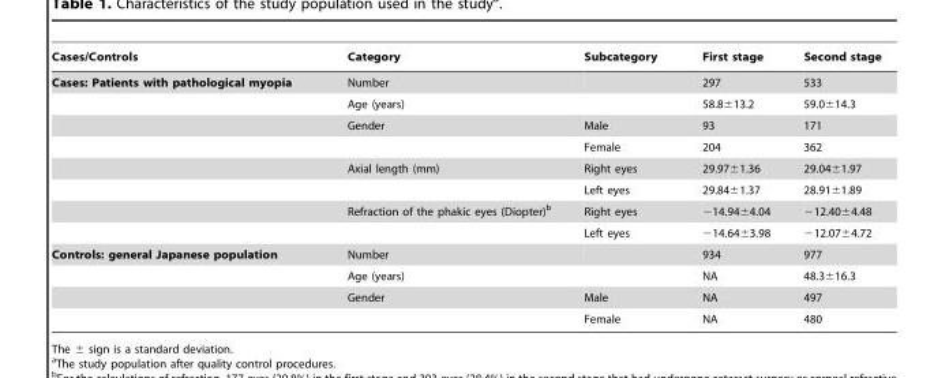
<table><thead><tr><td>Cases/Controls</td><td>Category</td><td>Subcategory</td><td>First stage</td><td>Second stage</td></tr></thead><tbody><tr><td rowspan="8">Cases: Patients with pathological myopia</td><td>Number</td><td></td><td>297</td><td>533</td></tr><tr><td>Age (years)</td><td></td><td>58.8±13.2</td><td>59.0±14.3</td></tr><tr><td>Gender</td><td>Male</td><td>93</td><td>171</td></tr><tr><td></td><td>Female</td><td>204</td><td>362</td></tr><tr><td>Axial length (mm)</td><td>Right eyes</td><td>29.97±1.36</td><td>29.04±1.97</td></tr><tr><td></td><td>Left eyes</td><td>29.84±1.37</td><td>28.91±1.89</td></tr><tr><td>Refraction of the phakic eyes (Diopter)<sup>b</sup></td><td>Right eyes</td><td>−14.94±4.04</td><td>−12.40±4.48</td></tr><tr><td></td><td>Left eyes</td><td>−14.64±3.98</td><td>−12.07±4.72</td></tr><tr><td rowspan="4">Controls: general Japanese population</td><td>Number</td><td></td><td>934</td><td>977</td></tr><tr><td>Age (years)</td><td></td><td>NA</td><td>48.3±16.3</td></tr><tr><td>Gender</td><td>Male</td><td>NA</td><td>497</td></tr><tr><td></td><td>Female</td><td>NA</td><td>480</td></tr></tbody></table>